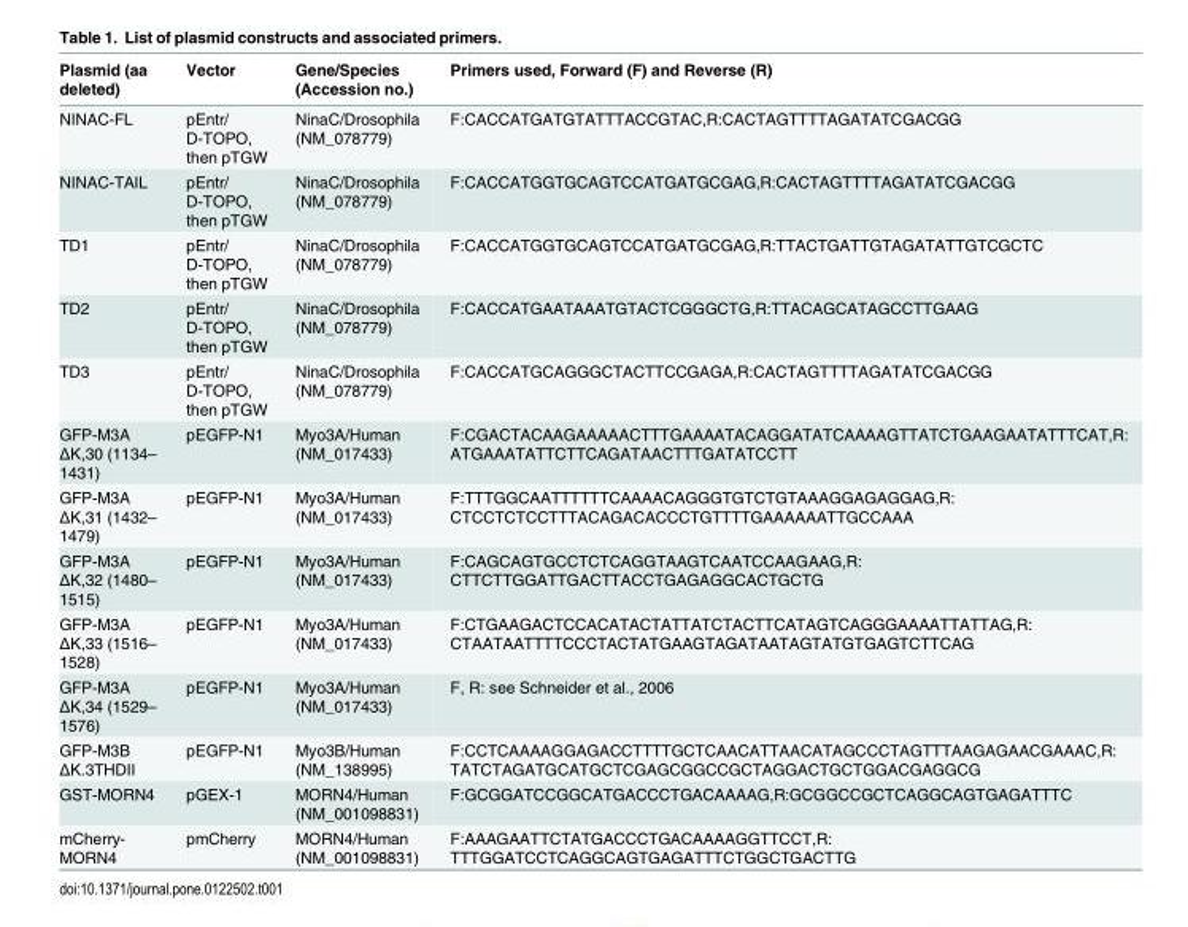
<table><thead><tr><td>Plasmid (aa deleted)</td><td>Vector</td><td>Gene/Species (Accession no.)</td><td>Primers used, Forward (F) and Reverse (R)</td></tr></thead><tbody><tr><td>NINAC-FL</td><td>pEntr/ D-TOPO, then pTGW</td><td>NinaC/Drosophila (NM_078779)</td><td>F:CACCATGATGTATTTACCGTAC,R:CACTAGTTTTAGATATCGACGG</td></tr><tr><td>NINAC-TAIL</td><td>pEntr/ D-TOPO, then pTGW</td><td>NinaC/Drosophila (NM_078779)</td><td>F:CACCATGGTGCAGTCCATGATGCGAG,R:CACTAGTTTTAGATATCGACGG</td></tr><tr><td>TD1</td><td>pEntr/ D-TOPO, then pTGW</td><td>NinaC/Drosophila (NM_078779)</td><td>F:CACCATGGTGCAGTCCATGATGCGAG,R:TTACTGATTGTAGATATTGTCGCTC</td></tr><tr><td>TD2</td><td>pEntr/ D-TOPO, then pTGW</td><td>NinaC/Drosophila (NM_078779)</td><td>F:CACCATGAATAAATGTACTCGGGCTG,R:TTACAGCATAGCCTTGAAG</td></tr><tr><td>TD3</td><td>pEntr/ D-TOPO, then pTGW</td><td>NinaC/Drosophila (NM_078779)</td><td>F:CACCATGCAGGGCTACTTCCGAGA,R:CACTAGTTTTAGATATCGACGG</td></tr><tr><td>GFP-M3A ΔK,30 (1134– 1431)</td><td>pEGFP-N1</td><td>Myo3A/Human (NM_017433)</td><td>F:CGACTACAAGAAAAACTTTGAAAATACAGGATATCAAAAGTTATCTGAAGAATATTTCAT,R: ATGAAATATTCTTCAGATAACTTTGATATCCTT</td></tr><tr><td>GFP-M3A ΔK,31 (1432– 1479)</td><td>pEGFP-N1</td><td>Myo3A/Human (NM_017433)</td><td>F:TTTGGCAATTTTTTCAAAACAGGGTGTCTGTAAAGGAGAGGAG,R: CTCCTCTCCTTTACAGACACCCTGTTTTGAAAAAATTGCCAAA</td></tr><tr><td>GFP-M3A ΔK,32 (1480– 1515)</td><td>pEGFP-N1</td><td>Myo3A/Human (NM_017433)</td><td>F:CAGCAGTGCCTCTCAGGTAAGTCAATCCAAGAAG,R: CTTCTTGGATTGACTTACCTGAGAGGCACTGCTG</td></tr><tr><td>GFP-M3A ΔK,33 (1516– 1528)</td><td>pEGFP-N1</td><td>Myo3A/Human (NM_017433)</td><td>F:CTGAAGACTCCACATACTATTATCTACTTCATAGTCAGGGAAAATTATTAG,R: CTAATAATTTTCCCTACTATGAAGTAGATAATAGTATGTGAGTCTTCAG</td></tr><tr><td>GFP-M3A ΔK,34 (1529– 1576)</td><td>pEGFP-N1</td><td>Myo3A/Human (NM_017433)</td><td>F, R: see Schneider et al., 2006</td></tr><tr><td>GFP-M3B ΔK.3THDII</td><td>pEGFP-N1</td><td>Myo3B/Human (NM_138995)</td><td>F:CCTCAAAAGGAGACCTTTTGCTCAACATTAACATAGCCCTAGTTTAAGAGAACGAAAC,R: TATCTAGATGCATGCTCGAGCGGCCGCTAGGACTGCTGGACGAGGCG</td></tr><tr><td>GST-MORN4</td><td>pGEX-1</td><td>MORN4/Human (NM_001098831)</td><td>F:GCGGATCCGGCATGACCCTGACAAAAG,R:GCGGCCGCTCAGGCAGTGAGATTTC</td></tr><tr><td>mCherry- MORN4</td><td>pmCherry</td><td>MORN4/Human (NM_001098831)</td><td>F:AAAGAATTCTATGACCCTGACAAAAGGTTCCT,R: TTTGGATCCTCAGGCAGTGAGATTTCTGGCTGACTTG</td></tr></tbody></table>